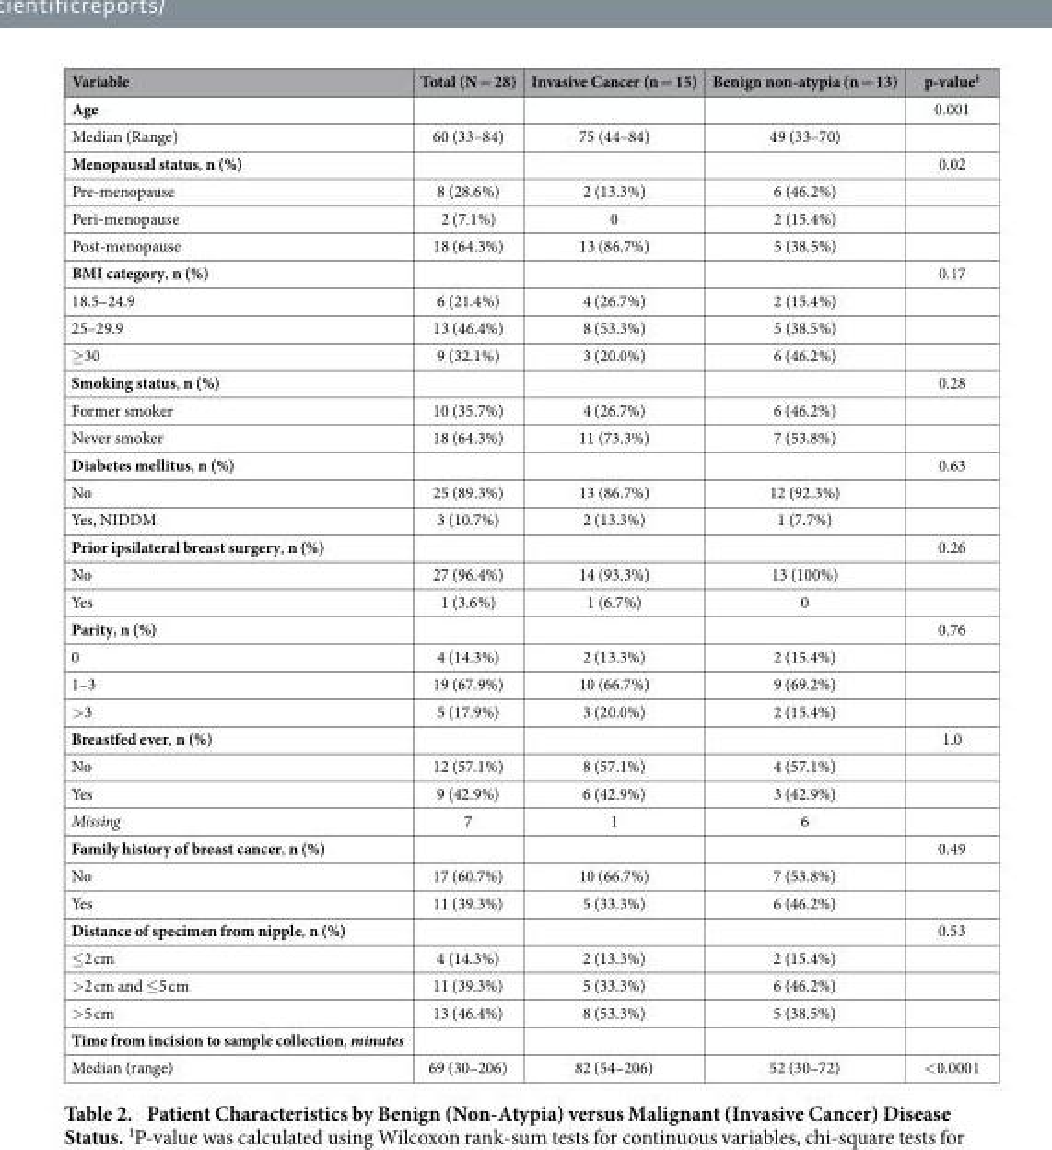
<table><thead><tr><td>Variable</td><td>Total (N = 28)</td><td>Invasive Cancer (n = 15)</td><td>Benign non-atypia (n = 13)</td><td>p-value<sup>1</sup></td></tr></thead><tbody><tr><td>Age</td><td></td><td></td><td></td><td>0.001</td></tr><tr><td>Median (Range)</td><td>60 (33–84)</td><td>75 (44–84)</td><td>49 (33–70)</td><td></td></tr><tr><td>Menopausal status, n (%)</td><td></td><td></td><td></td><td>0.02</td></tr><tr><td>Pre-menopause</td><td>8 (28.6%)</td><td>2 (13.3%)</td><td>6 (46.2%)</td><td></td></tr><tr><td>Peri-menopause</td><td>2 (7.1%)</td><td>0</td><td>2 (15.4%)</td><td></td></tr><tr><td>Post-menopause</td><td>18 (64.3%)</td><td>13 (86.7%)</td><td>5 (38.5%)</td><td></td></tr><tr><td>BMI category, n (%)</td><td></td><td></td><td></td><td>0.17</td></tr><tr><td>18.5–24.9</td><td>6 (21.4%)</td><td>4 (26.7%)</td><td>2 (15.4%)</td><td></td></tr><tr><td>25–29.9</td><td>13 (46.4%)</td><td>8 (53.3%)</td><td>5 (38.5%)</td><td></td></tr><tr><td>≥ 30</td><td>9 (32.1%)</td><td>3 (20.0%)</td><td>6 (46.2%)</td><td></td></tr><tr><td>Smoking status, n (%)</td><td></td><td></td><td></td><td>0.28</td></tr><tr><td>Former smoker</td><td>10 (35.7%)</td><td>4 (26.7%)</td><td>6 (46.2%)</td><td></td></tr><tr><td>Never smoker</td><td>18 (64.3%)</td><td>11 (73.3%)</td><td>7 (53.8%)</td><td></td></tr><tr><td>Diabetes mellitus, n (%)</td><td></td><td></td><td></td><td>0.63</td></tr><tr><td>No</td><td>25 (89.3%)</td><td>13 (86.7%)</td><td>12 (92.3%)</td><td></td></tr><tr><td>Yes, NIDDM</td><td>3 (10.7%)</td><td>2 (13.3%)</td><td>1 (7.7%)</td><td></td></tr><tr><td>Prior ipsilateral breast surgery, n (%)</td><td></td><td></td><td></td><td>0.26</td></tr><tr><td>No</td><td>27 (96.4%)</td><td>14 (93.3%)</td><td>13 (100%)</td><td></td></tr><tr><td>Yes</td><td>1 (3.6%)</td><td>1 (6.7%)</td><td>0</td><td></td></tr><tr><td>Parity, n (%)</td><td></td><td></td><td></td><td>0.76</td></tr><tr><td>0</td><td>4 (14.3%)</td><td>2 (13.3%)</td><td>2 (15.4%)</td><td></td></tr><tr><td>1–3</td><td>19 (67.9%)</td><td>10 (66.7%)</td><td>9 (69.2%)</td><td></td></tr><tr><td>&gt; 3</td><td>5 (17.9%)</td><td>3 (20.0%)</td><td>2 (15.4%)</td><td></td></tr><tr><td>Breastfed ever, n (%)</td><td></td><td></td><td></td><td>1.0</td></tr><tr><td>No</td><td>12 (57.1%)</td><td>8 (57.1%)</td><td>4 (57.1%)</td><td></td></tr><tr><td>Yes</td><td>9 (42.9%)</td><td>6 (42.9%)</td><td>3 (42.9%)</td><td></td></tr><tr><td>Missing</td><td>7</td><td>1</td><td>6</td><td></td></tr><tr><td>Family history of breast cancer, n (%)</td><td></td><td></td><td></td><td>0.49</td></tr><tr><td>No</td><td>17 (60.7%)</td><td>10 (66.7%)</td><td>7 (53.8%)</td><td></td></tr><tr><td>Yes</td><td>11 (39.3%)</td><td>5 (33.3%)</td><td>6 (46.2%)</td><td></td></tr><tr><td>Distance of specimen from nipple, n (%)</td><td></td><td></td><td></td><td>0.53</td></tr><tr><td>≤ 2 cm</td><td>4 (14.3%)</td><td>2 (13.3%)</td><td>2 (15.4%)</td><td></td></tr><tr><td>&gt; 2 cm and ≤ 5 cm</td><td>11 (39.3%)</td><td>5 (33.3%)</td><td>6 (46.2%)</td><td></td></tr><tr><td>&gt; 5 cm</td><td>13 (46.4%)</td><td>8 (53.3%)</td><td>5 (38.5%)</td><td></td></tr><tr><td colspan="5">Time from incision to sample collection, minutes</td></tr><tr><td>Median (range)</td><td>69 (30–206)</td><td>82 (54–206)</td><td>52 (30–72)</td><td>&lt; 0.0001</td></tr></tbody></table>